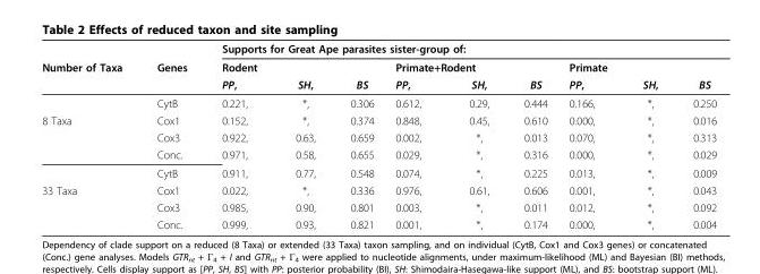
<table><thead><tr><td rowspan="3">Number of Taxa</td><td rowspan="3">Genes</td><td colspan="9">Supports for Great Ape parasites sister-group of:</td></tr><tr><td colspan="3">Rodent</td><td colspan="3">Primate+Rodent</td><td colspan="3">Primate</td></tr><tr><td>PP,</td><td>SH,</td><td>BS</td><td>PP,</td><td>SH,</td><td>BS</td><td>PP,</td><td>SH,</td><td>BS</td></tr></thead><tbody><tr><td></td><td>CytB</td><td>0.221,</td><td>*,</td><td>0.306</td><td>0.612,</td><td>0.29,</td><td>0.444</td><td>0.166,</td><td>*,</td><td>0.250</td></tr><tr><td rowspan="4">8 Taxa</td><td>Cox1</td><td>0.152,</td><td>*,</td><td>0.374</td><td>0.848,</td><td>0.45,</td><td>0.610</td><td>0.000,</td><td>*,</td><td>0.016</td></tr><tr><td>Cox3</td><td>0.922,</td><td>0.63,</td><td>0.659</td><td>0.002,</td><td>*,</td><td>0.013</td><td>0.070,</td><td>*,</td><td>0.313</td></tr><tr><td>Conc.</td><td>0.971,</td><td>0.58,</td><td>0.655</td><td>0.029,</td><td>*,</td><td>0.316</td><td>0.000,</td><td>*,</td><td>0.029</td></tr><tr><td>CytB</td><td>0.911,</td><td>0.77,</td><td>0.548</td><td>0.074,</td><td>*,</td><td>0.225</td><td>0.013,</td><td>*,</td><td>0.009</td></tr><tr><td rowspan="3">33 Taxa</td><td>Cox1</td><td>0.022,</td><td>*,</td><td>0.336</td><td>0.976,</td><td>0.61,</td><td>0.606</td><td>0.001,</td><td>*,</td><td>0.043</td></tr><tr><td>Cox3</td><td>0.985,</td><td>0.90,</td><td>0.801</td><td>0.003,</td><td>*,</td><td>0.011</td><td>0.012,</td><td>*,</td><td>0.092</td></tr><tr><td>Conc.</td><td>0.999,</td><td>0.93,</td><td>0.821</td><td>0.001,</td><td>*,</td><td>0.174</td><td>0.000,</td><td>*,</td><td>0.004</td></tr></tbody></table>